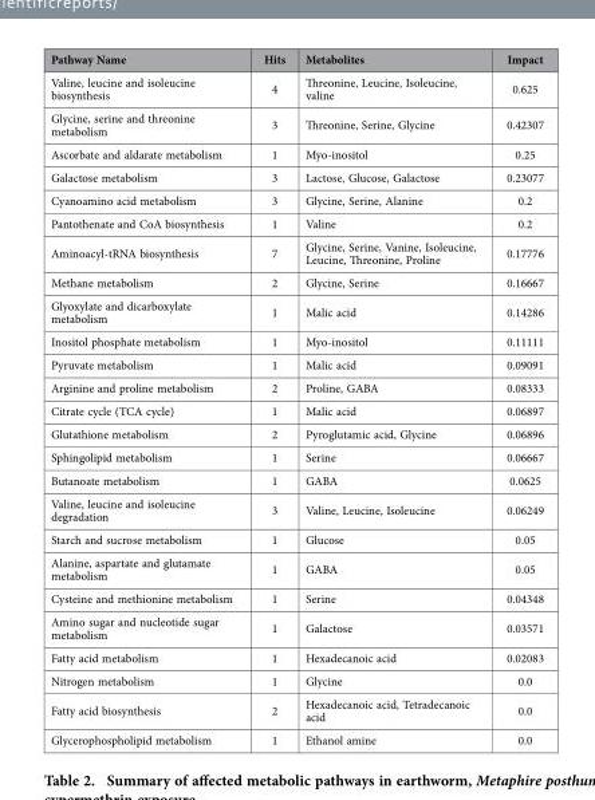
<table><thead><tr><td>Pathway Name</td><td>Hits</td><td>Metabolites</td><td>Impact</td></tr></thead><tbody><tr><td>Valine, leucine and isoleucine biosynthesis</td><td>4</td><td>Threonine, Leucine, Isoleucine, valine</td><td>0.625</td></tr><tr><td>Glycine, serine and threonine metabolism</td><td>3</td><td>Threonine, Serine, Glycine</td><td>0.42307</td></tr><tr><td>Ascorbate and aldarate metabolism</td><td>1</td><td>Myo-inositol</td><td>0.25</td></tr><tr><td>Galactose metabolism</td><td>3</td><td>Lactose, Glucose, Galactose</td><td>0.23077</td></tr><tr><td>Cyanoamino acid metabolism</td><td>3</td><td>Glycine, Serine, Alanine</td><td>0.2</td></tr><tr><td>Pantothenate and CoA biosynthesis</td><td>1</td><td>Valine</td><td>0.2</td></tr><tr><td>Aminoacyl-tRNA biosynthesis</td><td>7</td><td>Glycine, Serine, Vanine, Isoleucine, Leucine, Threonine, Proline</td><td>0.17776</td></tr><tr><td>Methane metabolism</td><td>2</td><td>Glycine, Serine</td><td>0.16667</td></tr><tr><td>Glyoxylate and dicarboxylate metabolism</td><td>1</td><td>Malic acid</td><td>0.14286</td></tr><tr><td>Inositol phosphate metabolism</td><td>1</td><td>Myo-inositol</td><td>0.11111</td></tr><tr><td>Pyruvate metabolism</td><td>1</td><td>Malic acid</td><td>0.09091</td></tr><tr><td>Arginine and proline metabolism</td><td>2</td><td>Proline, GABA</td><td>0.08333</td></tr><tr><td>Citrate cycle (TCA cycle)</td><td>1</td><td>Malic acid</td><td>0.06897</td></tr><tr><td>Glutathione metabolism</td><td>2</td><td>Pyroglutamic acid, Glycine</td><td>0.06896</td></tr><tr><td>Sphingolipid metabolism</td><td>1</td><td>Serine</td><td>0.06667</td></tr><tr><td>Butanoate metabolism</td><td>1</td><td>GABA</td><td>0.0625</td></tr><tr><td>Valine, leucine and isoleucine degradation</td><td>3</td><td>Valine, Leucine, Isoleucine</td><td>0.06249</td></tr><tr><td>Starch and sucrose metabolism</td><td>1</td><td>Glucose</td><td>0.05</td></tr><tr><td>Alanine, aspartate and glutamate metabolism</td><td>1</td><td>GABA</td><td>0.05</td></tr><tr><td>Cysteine and methionine metabolism</td><td>1</td><td>Serine</td><td>0.04348</td></tr><tr><td>Amino sugar and nucleotide sugar metabolism</td><td>1</td><td>Galactose</td><td>0.03571</td></tr><tr><td>Fatty acid metabolism</td><td>1</td><td>Hexadecanoic acid</td><td>0.02083</td></tr><tr><td>Nitrogen metabolism</td><td>1</td><td>Glycine</td><td>0.0</td></tr><tr><td>Fatty acid biosynthesis</td><td>2</td><td>Hexadecanoic acid, Tetradecanoic acid</td><td>0.0</td></tr><tr><td>Glycerophospholipid metabolism</td><td>1</td><td>Ethanol amine</td><td>0.0</td></tr></tbody></table>